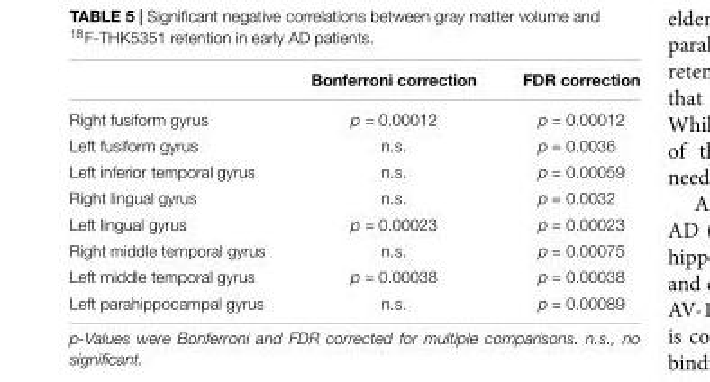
<table><thead><tr><td></td><td>Bonferroni correction</td><td>FDR correction</td></tr></thead><tbody><tr><td>Right fusiform gyrus</td><td>p = 0.00012</td><td>p = 0.00012</td></tr><tr><td>Left fusiform gyrus</td><td>n.s.</td><td>p = 0.0036</td></tr><tr><td>Left inferior temporal gyrus</td><td>n.s.</td><td>p = 0.00059</td></tr><tr><td>Right lingual gyrus</td><td>n.s.</td><td>p = 0.0032</td></tr><tr><td>Left lingual gyrus</td><td>p = 0.00023</td><td>p = 0.00023</td></tr><tr><td>Right middle temporal gyrus</td><td>n.s.</td><td>p = 0.00075</td></tr><tr><td>Left middle temporal gyrus</td><td>p = 0.00038</td><td>p = 0.00038</td></tr><tr><td>Left parahippocampal gyrus</td><td>n.s.</td><td>p = 0.00089</td></tr></tbody></table>